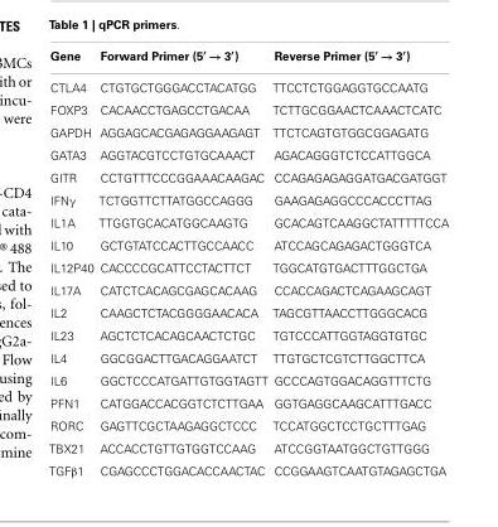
<table><thead><tr><td>Gene</td><td>Forward Primer (5′ → 3′)</td><td>Reverse Primer (5′ → 3′)</td></tr></thead><tbody><tr><td>CTLA4</td><td>CTGTGCTGGGACCTACATGG</td><td>TTCCTCTGGAGGTGCCAATG</td></tr><tr><td>FOXP3</td><td>CACAACCTGAGCCTGACAA</td><td>TCTTGCGGAACTCAAACTCATC</td></tr><tr><td>GAPDH</td><td>AGGAGCACGAGAGGAAGAGT</td><td>TTCTCAGTGTGGCGGAGATG</td></tr><tr><td>GATA3</td><td>AGGTACGTCCTGTGCAAACT</td><td>AGACAGGGTCTCCATTGGCA</td></tr><tr><td>GITR</td><td>CCTGTTTCCCGGAAACAAGAC</td><td>CCAGAGAGAGGATGACGATGGT</td></tr><tr><td>IFNγ</td><td>TCTGGTTCTTATGGCCAGGG</td><td>GAAGAGAGGCCCACCCTTAG</td></tr><tr><td>IL1A</td><td>TTGGTGCACATGGCAAGTG</td><td>GCACAGTCAAGGCTATTTTTCCA</td></tr><tr><td>IL10</td><td>GCTGTATCCACTTGCCAACC</td><td>ATCCAGCAGAGACTGGGTCA</td></tr><tr><td>IL12P40</td><td>CACCCCGCATTCCTACTTCT</td><td>TGGCATGTGACTTTGGCTGA</td></tr><tr><td>IL17A</td><td>CATCTCACAGCGAGCACAAG</td><td>CCACCAGACTCAGAAGCAGT</td></tr><tr><td>IL2</td><td>CAAGCTCTACGGGGAACACA</td><td>TAGCGTTAACCTTGGGCACG</td></tr><tr><td>IL23</td><td>AGCTCTCACAGCAACTCTGC</td><td>TGTCCCATTGGTAGGTGTGC</td></tr><tr><td>IL4</td><td>GGCGGACTTGACAGGAATCT</td><td>TTGTGCTCGTCTTGGCTTCA</td></tr><tr><td>IL6</td><td>GGCTCCCATGATTGTGGTAGTT</td><td>GCCCAGTGGACAGGTTTCTG</td></tr><tr><td>PFN1</td><td>CATGGACCACGGTCTCTTGAA</td><td>GGTGAGGCAAGCATTTGACC</td></tr><tr><td>RORC</td><td>GAGTTCGCTAAGAGGCTCCC</td><td>TCCATGGCTCCTGCTTTGAG</td></tr><tr><td>TBX21</td><td>ACCACCTGTTGTGGTCCAAG</td><td>ATCCGGTAATGGCTGTTGGG</td></tr><tr><td>TGFβ1</td><td>CGAGCCCTGGACACCAACTAC</td><td>CCGGAAGTCAATGTAGAGCTGA</td></tr></tbody></table>